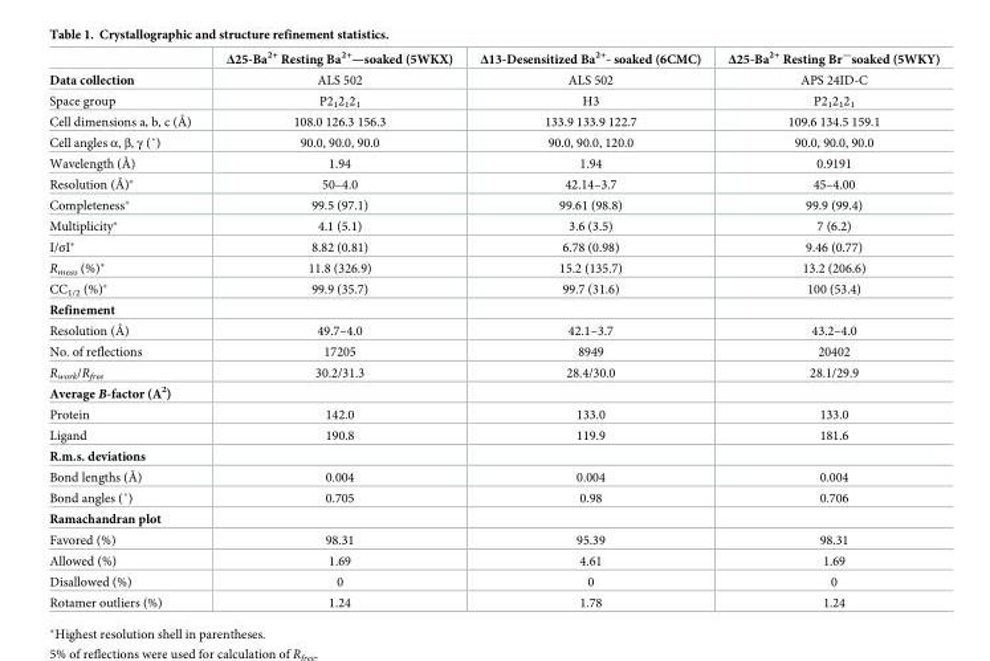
<table><thead><tr><td></td><td>Δ25-Ba<sup>2+</sup> Resting Ba<sup>2+</sup>—soaked (5WKX)</td><td>Δ13-Desensitized Ba<sup>2+</sup>- soaked (6CMC)</td><td>Δ25-Ba<sup>2+</sup> Resting Br<sup>—</sup>soaked (5WKY)</td></tr></thead><tbody><tr><td>Data collection</td><td>ALS 502</td><td>ALS 502</td><td>APS 24ID-C</td></tr><tr><td>Space group</td><td>P2<sub>1</sub>2<sub>1</sub>2<sub>1</sub></td><td>H3</td><td>P2<sub>1</sub>2<sub>1</sub>2<sub>1</sub></td></tr><tr><td>Cell dimensions a, b, c (Å)</td><td>108.0 126.3 156.3</td><td>133.9 133.9 122.7</td><td>109.6 134.5 159.1</td></tr><tr><td>Cell angles α, β, γ (˚)</td><td>90.0, 90.0, 90.0</td><td>90.0, 90.0, 120.0</td><td>90.0, 90.0, 90.0</td></tr><tr><td>Wavelength (Å)</td><td>1.94</td><td>1.94</td><td>0.9191</td></tr><tr><td>Resolution (Å)*</td><td>50–4.0</td><td>42.14–3.7</td><td>45–4.00</td></tr><tr><td>Completeness*</td><td>99.5 (97.1)</td><td>99.61 (98.8)</td><td>99.9 (99.4)</td></tr><tr><td>Multiplicity*</td><td>4.1 (5.1)</td><td>3.6 (3.5)</td><td>7 (6.2)</td></tr><tr><td>I/σI*</td><td>8.82 (0.81)</td><td>6.78 (0.98)</td><td>9.46 (0.77)</td></tr><tr><td>R<sub>meas</sub> (%)*</td><td>11.8 (326.9)</td><td>15.2 (135.7)</td><td>13.2 (206.6)</td></tr><tr><td>CC<sub>1/2</sub> (%)*</td><td>99.9 (35.7)</td><td>99.7 (31.6)</td><td>100 (53.4)</td></tr><tr><td colspan="4">Refinement</td></tr><tr><td>Resolution (Å)</td><td>49.7–4.0</td><td>42.1–3.7</td><td>43.2–4.0</td></tr><tr><td>No. of reflections</td><td>17205</td><td>8949</td><td>20402</td></tr><tr><td>R<sub>work</sub>/R<sub>free</sub></td><td>30.2/31.3</td><td>28.4/30.0</td><td>28.1/29.9</td></tr><tr><td colspan="4">Average B-factor (A<sup>2</sup>)</td></tr><tr><td>Protein</td><td>142.0</td><td>133.0</td><td>133.0</td></tr><tr><td>Ligand</td><td>190.8</td><td>119.9</td><td>181.6</td></tr><tr><td colspan="4">R.m.s. deviations</td></tr><tr><td>Bond lengths (Å)</td><td>0.004</td><td>0.004</td><td>0.004</td></tr><tr><td>Bond angles (˚)</td><td>0.705</td><td>0.98</td><td>0.706</td></tr><tr><td colspan="4">Ramachandran plot</td></tr><tr><td>Favored (%)</td><td>98.31</td><td>95.39</td><td>98.31</td></tr><tr><td>Allowed (%)</td><td>1.69</td><td>4.61</td><td>1.69</td></tr><tr><td>Disallowed (%)</td><td>0</td><td>0</td><td>0</td></tr><tr><td>Rotamer outliers (%)</td><td>1.24</td><td>1.78</td><td>1.24</td></tr></tbody></table>